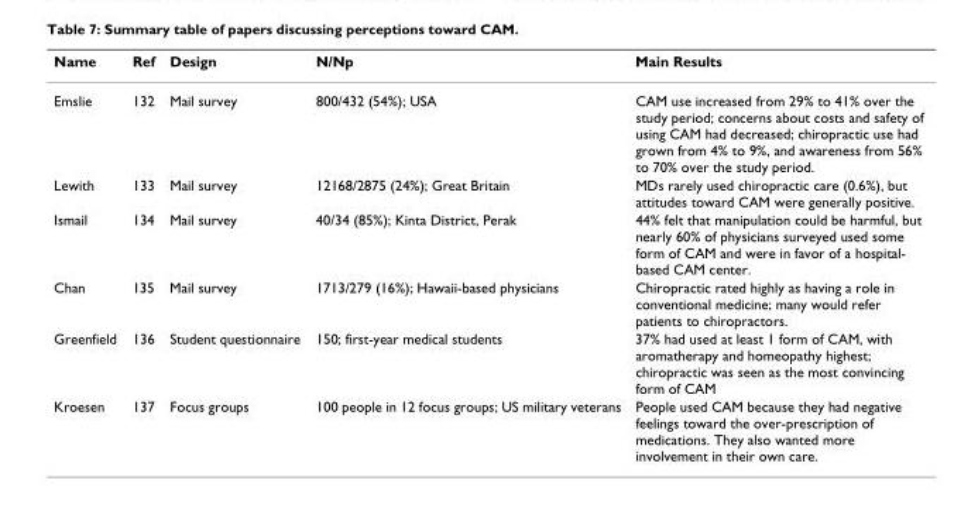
<table><thead><tr><td>Name</td><td>Ref</td><td>Design</td><td>N/Np</td><td>Main Results</td></tr></thead><tbody><tr><td>Emslie</td><td>132</td><td>Mail survey</td><td>800/432 (54%); USA</td><td>CAM use increased from 29% to 41% over the study period; concerns about costs and safety of using CAM had decreased; chiropractic use had grown from 4% to 9%, and awareness from 56% to 70% over the study period.</td></tr><tr><td>Lewith</td><td>133</td><td>Mail survey</td><td>12168/2875 (24%); Great Britain</td><td>MDs rarely used chiropractic care (0.6%), but attitudes toward CAM were generally positive.</td></tr><tr><td>Ismail</td><td>134</td><td>Mail survey</td><td>40/34 (85%); Kinta District, Perak</td><td>44% felt that manipulation could be harmful, but nearly 60% of physicians surveyed used some form of CAM and were in favor of a hospital- based CAM center.</td></tr><tr><td>Chan</td><td>135</td><td>Mail survey</td><td>1713/279 (16%); Hawaii-based physicians</td><td>Chiropractic rated highly as having a role in conventional medicine; many would refer patients to chiropractors.</td></tr><tr><td>Greenfield</td><td>136</td><td>Student questionnaire</td><td>150; first-year medical students</td><td>37% had used at least 1 form of CAM, with aromatherapy and homeopathy highest; chiropractic was seen as the most convincing form of CAM</td></tr><tr><td>Kroesen</td><td>137</td><td>Focus groups</td><td>100 people in 12 focus groups; US military veterans</td><td>People used CAM because they had negative feelings toward the over-prescription of medications. They also wanted more involvement in their own care.</td></tr></tbody></table>